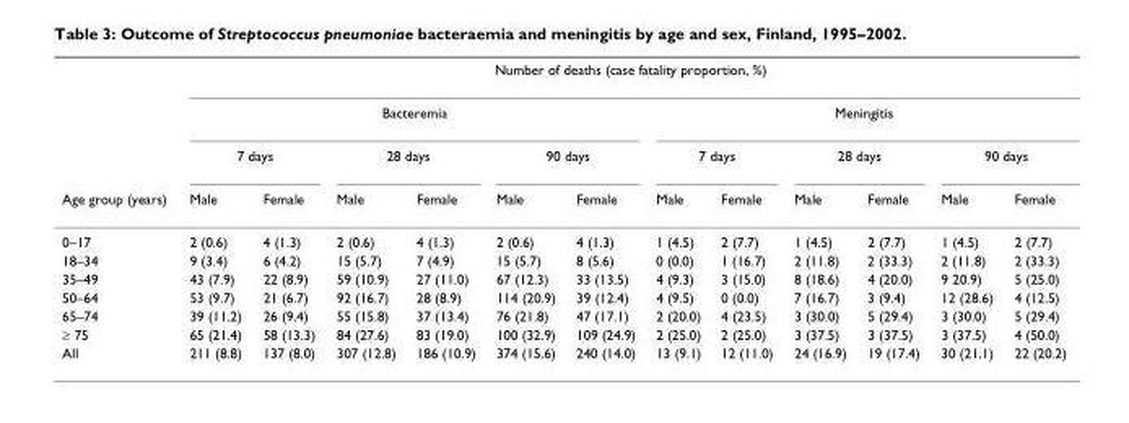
<table><thead><tr><td rowspan="4">Age group (years)</td><td colspan="12">Number of deaths (case fatality proportion, %)</td></tr><tr><td colspan="6">Bacteremia</td><td colspan="6">Meningitis</td></tr><tr><td colspan="2">7 days</td><td colspan="2">28 days</td><td colspan="2">90 days</td><td colspan="2">7 days</td><td colspan="2">28 days</td><td colspan="2">90 days</td></tr><tr><td>Male</td><td>Female</td><td>Male</td><td>Female</td><td>Male</td><td>Female</td><td>Male</td><td>Female</td><td>Male</td><td>Female</td><td>Male</td><td>Female</td></tr></thead><tbody><tr><td>0–17</td><td>2 (0.6)</td><td>4 (1.3)</td><td>2 (0.6)</td><td>4 (1.3)</td><td>2 (0.6)</td><td>4 (1.3)</td><td>1 (4.5)</td><td>2 (7.7)</td><td>1 (4.5)</td><td>2 (7.7)</td><td>1 (4.5)</td><td>2 (7.7)</td></tr><tr><td>18–34</td><td>9 (3.4)</td><td>6 (4.2)</td><td>15 (5.7)</td><td>7 (4.9)</td><td>15 (5.7)</td><td>8 (5.6)</td><td>0 (0.0)</td><td>1 (16.7)</td><td>2 (11.8)</td><td>2 (33.3)</td><td>2 (11.8)</td><td>2 (33.3)</td></tr><tr><td>35–49</td><td>43 (7.9)</td><td>22 (8.9)</td><td>59 (10.9)</td><td>27 (11.0)</td><td>67 (12.3)</td><td>33 (13.5)</td><td>4 (9.3)</td><td>3 (15.0)</td><td>8 (18.6)</td><td>4 (20.0)</td><td>9 20.9)</td><td>5 (25.0)</td></tr><tr><td>50–64</td><td>53 (9.7)</td><td>21 (6.7)</td><td>92 (16.7)</td><td>28 (8.9)</td><td>114 (20.9)</td><td>39 (12.4)</td><td>4 (9.5)</td><td>0 (0.0)</td><td>7 (16.7)</td><td>3 (9.4)</td><td>12 (28.6)</td><td>4 (12.5)</td></tr><tr><td>65–74</td><td>39 (11.2)</td><td>26 (9.4)</td><td>55 (15.8)</td><td>37 (13.4)</td><td>76 (21.8)</td><td>47 (17.1)</td><td>2 (20.0)</td><td>4 (23.5)</td><td>3 (30.0)</td><td>5 (29.4)</td><td>3 (30.0)</td><td>5 (29.4)</td></tr><tr><td>≥ 75</td><td>65 (21.4)</td><td>58 (13.3)</td><td>84 (27.6)</td><td>83 (19.0)</td><td>100 (32.9)</td><td>109 (24.9)</td><td>2 (25.0)</td><td>2 (25.0)</td><td>3 (37.5)</td><td>3 (37.5)</td><td>3 (37.5)</td><td>4 (50.0)</td></tr><tr><td>All</td><td>211 (8.8)</td><td>137 (8.0)</td><td>307 (12.8)</td><td>186 (10.9)</td><td>374 (15.6)</td><td>240 (14.0)</td><td>13 (9.1)</td><td>12 (11.0)</td><td>24 (16.9)</td><td>19 (17.4)</td><td>30 (21.1)</td><td>22 (20.2)</td></tr></tbody></table>